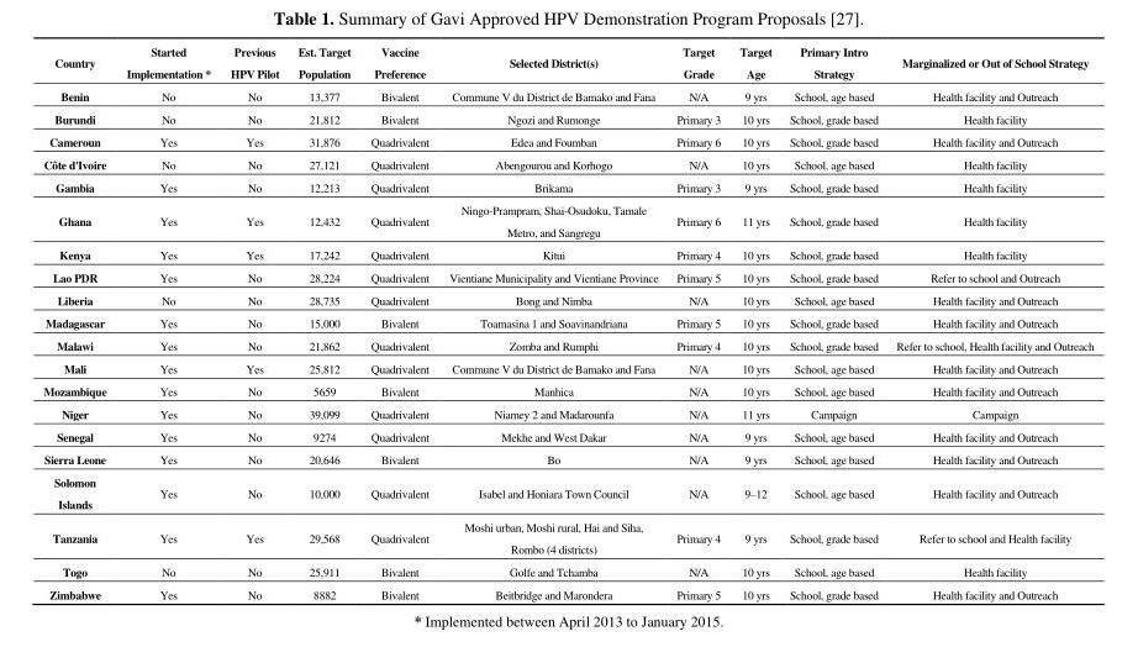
<table><thead><tr><td>Country</td><td>Started Implementation *</td><td>Previous HPV Pilot</td><td>Est. Target Population</td><td>Vaccine Preference</td><td>Selected District(s)</td><td>Target Grade</td><td>Target Age</td><td>Primary Intro Strategy</td><td>Marginalized or Out of School Strategy</td></tr></thead><tbody><tr><td>Benin</td><td>No</td><td>No</td><td>13,377</td><td>Bivalent</td><td>Commune V du District de Bamako and Fana</td><td>N/A</td><td>9 yrs</td><td>School, age based</td><td>Health facility and Outreach</td></tr><tr><td>Burundi</td><td>No</td><td>No</td><td>21,812</td><td>Bivalent</td><td>Ngozi and Rumonge</td><td>Primary 3</td><td>10 yrs</td><td>School, grade based</td><td>Health facility</td></tr><tr><td>Cameroun</td><td>Yes</td><td>Yes</td><td>31,876</td><td>Quadrivalent</td><td>Edea and Foumban</td><td>Primary 6</td><td>10 yrs</td><td>School, grade based</td><td>Health facility and Outreach</td></tr><tr><td>Côte d&#x27;Ivoire</td><td>No</td><td>No</td><td>27,121</td><td>Quadrivalent</td><td>Abengourou and Korhogo</td><td>N/A</td><td>10 yrs</td><td>School, age based</td><td>Health facility</td></tr><tr><td>Gambia</td><td>Yes</td><td>No</td><td>12,213</td><td>Quadrivalent</td><td>Brikama</td><td>Primary 3</td><td>9 yrs</td><td>School, grade based</td><td>Health facility</td></tr><tr><td>Ghana</td><td>Yes</td><td>Yes</td><td>12,432</td><td>Quadrivalent</td><td>Ningo-Prampram, Shai-Osudoku, Tamale Metro, and Sangregu</td><td>Primary 6</td><td>11 yrs</td><td>School, grade based</td><td>Health facility</td></tr><tr><td>Kenya</td><td>Yes</td><td>Yes</td><td>17,242</td><td>Quadrivalent</td><td>Kitui</td><td>Primary 4</td><td>10 yrs</td><td>School, grade based</td><td>Health facility</td></tr><tr><td>Lao PDR</td><td>Yes</td><td>No</td><td>28,224</td><td>Quadrivalent</td><td>Vientiane Municipality and Vientiane Province</td><td>Primary 5</td><td>10 yrs</td><td>School, grade based</td><td>Refer to school and Outreach</td></tr><tr><td>Liberia</td><td>No</td><td>No</td><td>28,735</td><td>Quadrivalent</td><td>Bong and Nimba</td><td>N/A</td><td>10 yrs</td><td>School, age based</td><td>Health facility and Outreach</td></tr><tr><td>Madagascar</td><td>Yes</td><td>No</td><td>15,000</td><td>Bivalent</td><td>Toamasina 1 and Soavinandriana</td><td>Primary 5</td><td>10 yrs</td><td>School, grade based</td><td>Health facility and Outreach</td></tr><tr><td>Malawi</td><td>Yes</td><td>No</td><td>21,862</td><td>Quadrivalent</td><td>Zomba and Rumphi</td><td>Primary 4</td><td>10 yrs</td><td>School, grade based</td><td>Refer to school, Health facility and Outreach</td></tr><tr><td>Mali</td><td>Yes</td><td>Yes</td><td>25,812</td><td>Quadrivalent</td><td>Commune V du District de Bamako and Fana</td><td>N/A</td><td>10 yrs</td><td>School, age based</td><td>Health facility and Outreach</td></tr><tr><td>Mozambique</td><td>Yes</td><td>No</td><td>5659</td><td>Bivalent</td><td>Manhica</td><td>N/A</td><td>10 yrs</td><td>School, age based</td><td>Health facility and Outreach</td></tr><tr><td>Niger</td><td>Yes</td><td>No</td><td>39,099</td><td>Quadrivalent</td><td>Niamey 2 and Madarounfa</td><td>N/A</td><td>11 yrs</td><td>Campaign</td><td>Campaign</td></tr><tr><td>Senegal</td><td>Yes</td><td>No</td><td>9274</td><td>Quadrivalent</td><td>Mekhe and West Dakar</td><td>N/A</td><td>9 yrs</td><td>School, age based</td><td>Health facility and Outreach</td></tr><tr><td>Sierra Leone</td><td>Yes</td><td>No</td><td>20,646</td><td>Bivalent</td><td>Bo</td><td>N/A</td><td>9 yrs</td><td>School, age based</td><td>Health facility and Outreach</td></tr><tr><td>Solomon Islands</td><td>Yes</td><td>No</td><td>10,000</td><td>Quadrivalent</td><td>Isabel and Honiara Town Council</td><td>N/A</td><td>9–12</td><td>School, age based</td><td>Health facility and Outreach</td></tr><tr><td>Tanzania</td><td>Yes</td><td>Yes</td><td>29,568</td><td>Quadrivalent</td><td>Moshi urban, Moshi rural, Hai and Siha, Rombo (4 districts)</td><td>Primary 4</td><td>9 yrs</td><td>School, grade based</td><td>Refer to school and Health facility</td></tr><tr><td>Togo</td><td>No</td><td>No</td><td>25,911</td><td>Bivalent</td><td>Golfe and Tchamba</td><td>N/A</td><td>10 yrs</td><td>School, age based</td><td>Health facility</td></tr><tr><td>Zimbabwe</td><td>Yes</td><td>No</td><td>8882</td><td>Bivalent</td><td>Beitbridge and Marondera</td><td>Primary 5</td><td>10 yrs</td><td>School, grade based</td><td>Health facility and Outreach</td></tr></tbody></table>